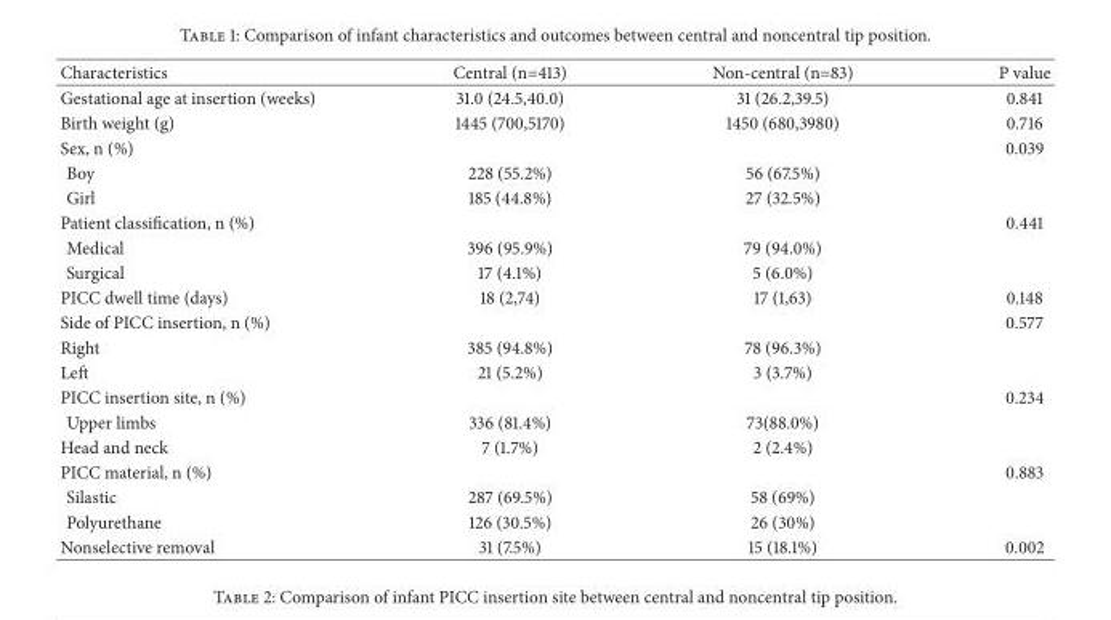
<table><thead><tr><td>Characteristics</td><td>Central (n=413)</td><td>Non-central (n=83)</td><td>P value</td></tr></thead><tbody><tr><td>Gestational age at insertion (weeks)</td><td>31.0 (24.5,40.0)</td><td>31 (26.2,39.5)</td><td>0.841</td></tr><tr><td>Birth weight (g)</td><td>1445 (700,5170)</td><td>1450 (680,3980)</td><td>0.716</td></tr><tr><td>Sex, n (%)</td><td></td><td></td><td>0.039</td></tr><tr><td>Boy</td><td>228 (55.2%)</td><td>56 (67.5%)</td><td rowspan="2"></td></tr><tr><td>Girl</td><td>185 (44.8%)</td><td>27 (32.5%)</td></tr><tr><td>Patient classification, n (%)</td><td></td><td></td><td>0.441</td></tr><tr><td>Medical</td><td>396 (95.9%)</td><td>79 (94.0%)</td><td rowspan="2"></td></tr><tr><td>Surgical</td><td>17 (4.1%)</td><td>5 (6.0%)</td></tr><tr><td>PICC dwell time (days)</td><td>18 (2,74)</td><td>17 (1,63)</td><td>0.148</td></tr><tr><td>Side of PICC insertion, n (%)</td><td></td><td></td><td>0.577</td></tr><tr><td>Right</td><td>385 (94.8%)</td><td>78 (96.3%)</td><td rowspan="2"></td></tr><tr><td>Left</td><td>21 (5.2%)</td><td>3 (3.7%)</td></tr><tr><td>PICC insertion site, n (%)</td><td></td><td></td><td>0.234</td></tr><tr><td>Upper limbs</td><td>336 (81.4%)</td><td>73(88.0%)</td><td rowspan="2"></td></tr><tr><td>Head and neck</td><td>7 (1.7%)</td><td>2 (2.4%)</td></tr><tr><td>PICC material, n (%)</td><td></td><td></td><td>0.883</td></tr><tr><td>Silastic</td><td>287 (69.5%)</td><td>58 (69%)</td><td rowspan="2"></td></tr><tr><td>Polyurethane</td><td>126 (30.5%)</td><td>26 (30%)</td></tr><tr><td>Nonselective removal</td><td>31 (7.5%)</td><td>15 (18.1%)</td><td>0.002</td></tr></tbody></table>